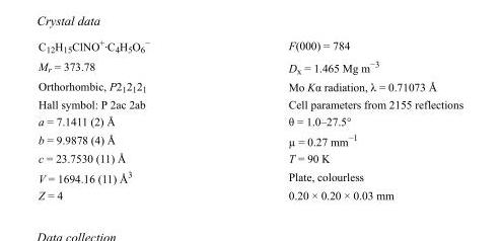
<table><tbody><tr><td>C<sub>12</sub>H<sub>15</sub>ClNO<sup>+</sup>·C<sub>4</sub>H<sub>5</sub>O<sub>6</sub> <sup>−</sup></td><td>F(000) = 784</td></tr><tr><td>M<sub>r</sub> = 373.78</td><td>D<sub>x</sub> = 1.465 Mg m<sup>−3</sup></td></tr><tr><td>Orthorhombic, P2<sub>1</sub>2<sub>1</sub>2<sub>1</sub></td><td>Mo Kα radiation, λ = 0.71073 Å</td></tr><tr><td>Hall symbol: P 2ac 2ab</td><td>Cell parameters from 2155 reflections</td></tr><tr><td>a = 7.1411 (2) Å</td><td>θ = 1.0–27.5°</td></tr><tr><td>b = 9.9878 (4) Å</td><td>µ = 0.27 mm<sup>−1</sup></td></tr><tr><td>c = 23.7530 (11) Å</td><td>T = 90 K</td></tr><tr><td>V = 1694.16 (11) Å<sup>3</sup></td><td>Plate, colourless</td></tr><tr><td>Z = 4</td><td>0.20 × 0.20 × 0.03 mm</td></tr></tbody></table>